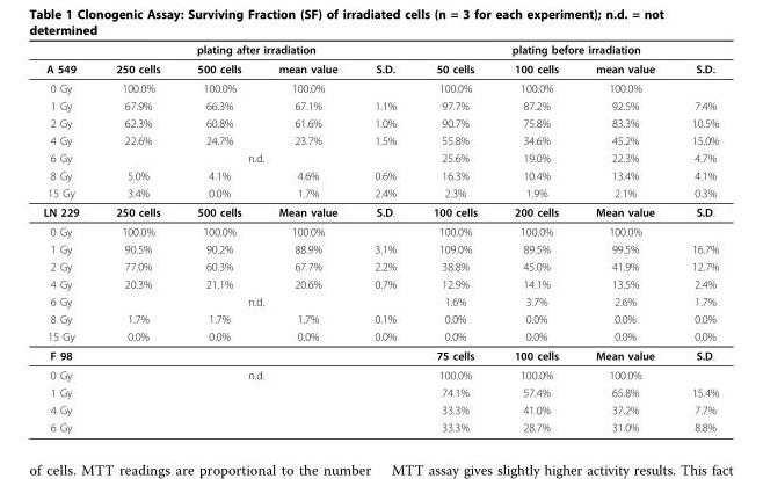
<table><thead><tr><td rowspan="2">A 549</td><td colspan="4">plating after irradiation</td><td colspan="4">plating before irradiation</td></tr><tr><td>250 cells</td><td>500 cells</td><td>mean value</td><td>S.D.</td><td>50 cells</td><td>100 cells</td><td>mean value</td><td>S.D.</td></tr></thead><tbody><tr><td>0 Gy</td><td>100.0%</td><td>100.0%</td><td>100.0%</td><td></td><td>100.0%</td><td>100.0%</td><td>100.0%</td><td></td></tr><tr><td>1 Gy</td><td>67.9%</td><td>66.3%</td><td>67.1%</td><td>1.1%</td><td>97.7%</td><td>87.2%</td><td>92.5%</td><td>7.4%</td></tr><tr><td>2 Gy</td><td>62.3%</td><td>60.8%</td><td>61.6%</td><td>1.0%</td><td>90.7%</td><td>75.8%</td><td>83.3%</td><td>10.5%</td></tr><tr><td>4 Gy</td><td>22.6%</td><td>24.7%</td><td>23.7%</td><td>1.5%</td><td>55.8%</td><td>34.6%</td><td>45.2%</td><td>15.0%</td></tr><tr><td>6 Gy</td><td colspan="4">n.d.</td><td>25.6%</td><td>19.0%</td><td>22.3%</td><td>4.7%</td></tr><tr><td>8 Gy</td><td>5.0%</td><td>4.1%</td><td>4.6%</td><td>0.6%</td><td>16.3%</td><td>10.4%</td><td>13.4%</td><td>4.1%</td></tr><tr><td>15 Gy</td><td>3.4%</td><td>0.0%</td><td>1.7%</td><td>2.4%</td><td>2.3%</td><td>1.9%</td><td>2.1%</td><td>0.3%</td></tr><tr><td>LN 229</td><td>250 cells</td><td>500 cells</td><td>Mean value</td><td>S.D.</td><td>100 cells</td><td>200 cells</td><td>Mean value</td><td>S.D.</td></tr><tr><td>0 Gy</td><td>100.0%</td><td>100.0%</td><td>100.0%</td><td></td><td>100.0%</td><td>100.0%</td><td>100.0%</td><td></td></tr><tr><td>1 Gy</td><td>90.5%</td><td>90.2%</td><td>88.9%</td><td>3.1%</td><td>109.0%</td><td>89.5%</td><td>99.5%</td><td>16.7%</td></tr><tr><td>2 Gy</td><td>77.0%</td><td>60.3%</td><td>67.7%</td><td>2.2%</td><td>38.8%</td><td>45.0%</td><td>41.9%</td><td>12.7%</td></tr><tr><td>4 Gy</td><td>20.3%</td><td>21.1%</td><td>20.6%</td><td>0.7%</td><td>12.9%</td><td>14.1%</td><td>13.5%</td><td>2.4%</td></tr><tr><td>6 Gy</td><td colspan="4">n.d.</td><td>1.6%</td><td>3.7%</td><td>2.6%</td><td>1.7%</td></tr><tr><td>8 Gy</td><td>1.7%</td><td>1.7%</td><td>1.7%</td><td>0.1%</td><td>0.0%</td><td>0.0%</td><td>0.0%</td><td>0.0%</td></tr><tr><td>15 Gy</td><td>0.0%</td><td>0.0%</td><td>0.0%</td><td>0.0%</td><td>0.0%</td><td>0.0%</td><td>0.0%</td><td>0.0%</td></tr><tr><td>F 98</td><td></td><td></td><td></td><td></td><td>75 cells</td><td>100 cells</td><td>Mean value</td><td>S.D.</td></tr><tr><td>0 Gy</td><td colspan="4">n.d.</td><td>100.0%</td><td>100.0%</td><td>100.0%</td><td></td></tr><tr><td>1 Gy</td><td></td><td></td><td></td><td></td><td>74.1%</td><td>57.4%</td><td>65.8%</td><td>15.4%</td></tr><tr><td>4 Gy</td><td></td><td></td><td></td><td></td><td>33.3%</td><td>41.0%</td><td>37.2%</td><td>7.7%</td></tr><tr><td>6 Gy</td><td></td><td></td><td></td><td></td><td>33.3%</td><td>28.7%</td><td>31.0%</td><td>8.8%</td></tr></tbody></table>